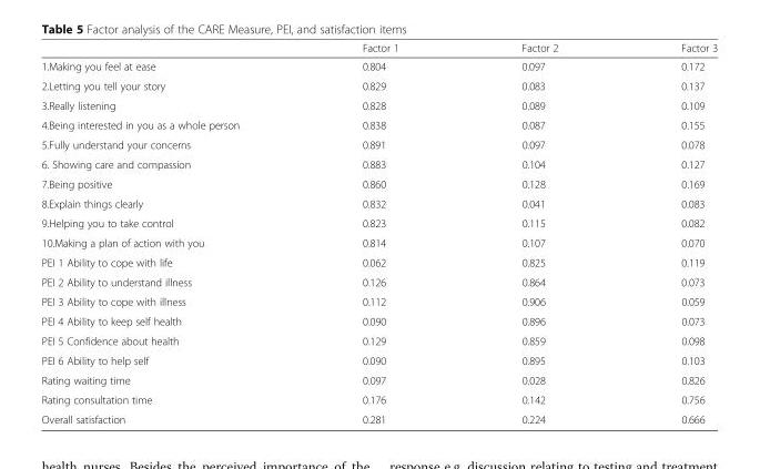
<table><thead><tr><td></td><td>Factor 1</td><td>Factor 2</td><td>Factor 3</td></tr></thead><tbody><tr><td>1.Making you feel at ease</td><td>0.804</td><td>0.097</td><td>0.172</td></tr><tr><td>2.Letting you tell your story</td><td>0.829</td><td>0.083</td><td>0.137</td></tr><tr><td>3.Really listening</td><td>0.828</td><td>0.089</td><td>0.109</td></tr><tr><td>4.Being interested in you as a whole person</td><td>0.838</td><td>0.087</td><td>0.155</td></tr><tr><td>5.Fully understand your concerns</td><td>0.891</td><td>0.097</td><td>0.078</td></tr><tr><td>6. Showing care and compassion</td><td>0.883</td><td>0.104</td><td>0.127</td></tr><tr><td>7.Being positive</td><td>0.860</td><td>0.128</td><td>0.169</td></tr><tr><td>8.Explain things clearly</td><td>0.832</td><td>0.041</td><td>0.083</td></tr><tr><td>9.Helping you to take control</td><td>0.823</td><td>0.115</td><td>0.082</td></tr><tr><td>10.Making a plan of action with you</td><td>0.814</td><td>0.107</td><td>0.070</td></tr><tr><td>PEI 1 Ability to cope with life</td><td>0.062</td><td>0.825</td><td>0.119</td></tr><tr><td>PEI 2 Ability to understand illness</td><td>0.126</td><td>0.864</td><td>0.073</td></tr><tr><td>PEI 3 Ability to cope with illness</td><td>0.112</td><td>0.906</td><td>0.059</td></tr><tr><td>PEI 4 Ability to keep self health</td><td>0.090</td><td>0.896</td><td>0.073</td></tr><tr><td>PEI 5 Confidence about health</td><td>0.129</td><td>0.859</td><td>0.098</td></tr><tr><td>PEI 6 Ability to help self</td><td>0.090</td><td>0.895</td><td>0.103</td></tr><tr><td>Rating waiting time</td><td>0.097</td><td>0.028</td><td>0.826</td></tr><tr><td>Rating consultation time</td><td>0.176</td><td>0.142</td><td>0.756</td></tr><tr><td>Overall satisfaction</td><td>0.281</td><td>0.224</td><td>0.666</td></tr></tbody></table>